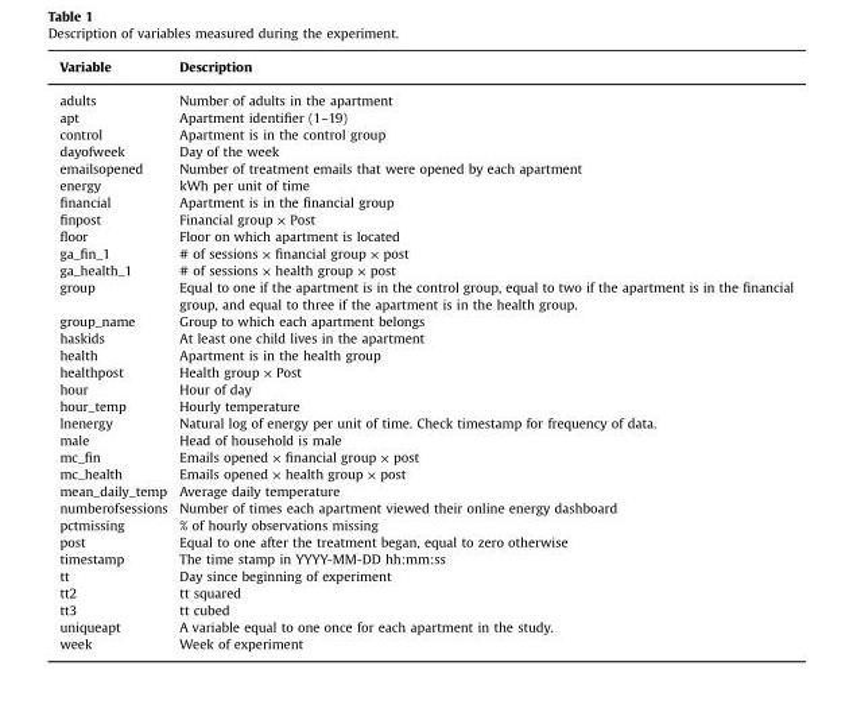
<table><thead><tr><td>Variable</td><td>Description</td></tr></thead><tbody><tr><td>adults</td><td>Number of adults in the apartment</td></tr><tr><td>apt</td><td>Apartment identifier (1–19)</td></tr><tr><td>control</td><td>Apartment is in the control group</td></tr><tr><td>dayofweek</td><td>Day of the week</td></tr><tr><td>emailsopened</td><td>Number of treatment emails that were opened by each apartment</td></tr><tr><td>energy</td><td>kWh per unit of time</td></tr><tr><td>financial</td><td>Apartment is in the financial group</td></tr><tr><td>finpost</td><td>Financial group × Post</td></tr><tr><td>floor</td><td>Floor on which apartment is located</td></tr><tr><td>ga_fin_1</td><td># of sessions × financial group × post</td></tr><tr><td>ga_health_1</td><td># of sessions × health group × post</td></tr><tr><td>group</td><td>Equal to one if the apartment is in the control group, equal to two if the apartment is in the financial group, and equal to three if the apartment is in the health group.</td></tr><tr><td>group_name</td><td>Group to which each apartment belongs</td></tr><tr><td>haskids</td><td>At least one child lives in the apartment</td></tr><tr><td>health</td><td>Apartment is in the health group</td></tr><tr><td>healthpost</td><td>Health group × Post</td></tr><tr><td>hour</td><td>Hour of day</td></tr><tr><td>hour_temp</td><td>Hourly temperature</td></tr><tr><td>lnenergy</td><td>Natural log of energy per unit of time. Check timestamp for frequency of data.</td></tr><tr><td>male</td><td>Head of household is male</td></tr><tr><td>mc_fin</td><td>Emails opened × financial group × post</td></tr><tr><td>mc_health</td><td>Emails opened × health group × post</td></tr><tr><td>mean_daily_temp</td><td>Average daily temperature</td></tr><tr><td>numberofsessions</td><td>Number of times each apartment viewed their online energy dashboard</td></tr><tr><td>pctmissing</td><td>% of hourly observations missing</td></tr><tr><td>post</td><td>Equal to one after the treatment began, equal to zero otherwise</td></tr><tr><td>timestamp</td><td>The time stamp in YYYY-MM-DD hh:mm:ss</td></tr><tr><td>tt</td><td>Day since beginning of experiment</td></tr><tr><td>tt2</td><td>tt squared</td></tr><tr><td>tt3</td><td>tt cubed</td></tr><tr><td>uniqueapt</td><td>A variable equal to one once for each apartment in the study.</td></tr><tr><td>week</td><td>Week of experiment</td></tr></tbody></table>